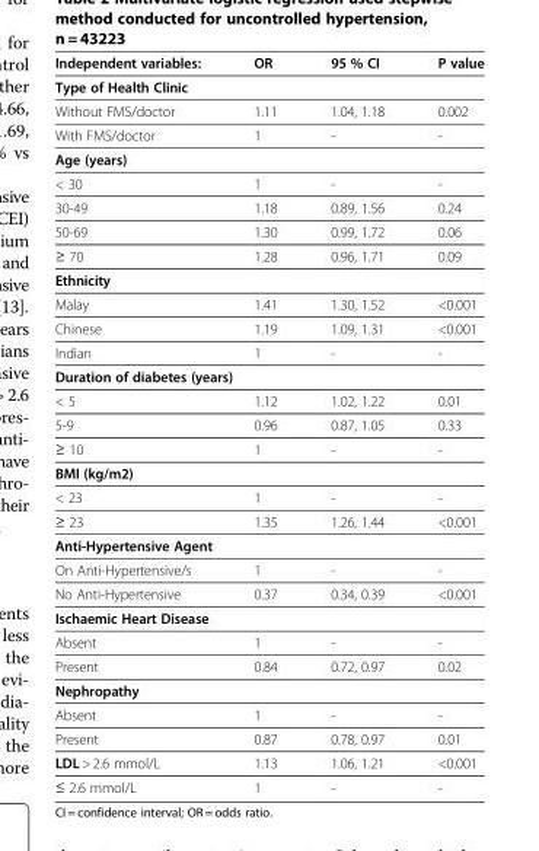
<table><thead><tr><td>Independent variables:</td><td>OR</td><td>95 % CI</td><td>P value</td></tr></thead><tbody><tr><td colspan="4">Type of Health Clinic</td></tr><tr><td>Without FMS/doctor</td><td>1.11</td><td>1.04, 1.18</td><td>0.002</td></tr><tr><td>With FMS/doctor</td><td>1</td><td>-</td><td>-</td></tr><tr><td colspan="4">Age (years)</td></tr><tr><td>&lt; 30</td><td>1</td><td>-</td><td>-</td></tr><tr><td>30-49</td><td>1.18</td><td>0.89, 1.56</td><td>0.24</td></tr><tr><td>50-69</td><td>1.30</td><td>0.99, 1.72</td><td>0.06</td></tr><tr><td>≥ 70</td><td>1.28</td><td>0.96, 1.71</td><td>0.09</td></tr><tr><td colspan="4">Ethnicity</td></tr><tr><td>Malay</td><td>1.41</td><td>1.30, 1.52</td><td>&lt;0.001</td></tr><tr><td>Chinese</td><td>1.19</td><td>1.09, 1.31</td><td>&lt;0.001</td></tr><tr><td>Indian</td><td>1</td><td>-</td><td>-</td></tr><tr><td colspan="4">Duration of diabetes (years)</td></tr><tr><td>&lt; 5</td><td>1.12</td><td>1.02, 1.22</td><td>0.01</td></tr><tr><td>5-9</td><td>0.96</td><td>0.87, 1.05</td><td>0.33</td></tr><tr><td>≥ 10</td><td>1</td><td>-</td><td>-</td></tr><tr><td colspan="4">BMI (kg/m2)</td></tr><tr><td>&lt; 23</td><td>1</td><td>-</td><td>-</td></tr><tr><td>≥ 23</td><td>1.35</td><td>1.26, 1.44</td><td>&lt;0.001</td></tr><tr><td colspan="4">Anti-Hypertensive Agent</td></tr><tr><td>On Anti-Hypertensive/s</td><td>1</td><td>-</td><td>-</td></tr><tr><td>No Anti-Hypertensive</td><td>0.37</td><td>0.34, 0.39</td><td>&lt;0.001</td></tr><tr><td colspan="4">Ischaemic Heart Disease</td></tr><tr><td>Absent</td><td>1</td><td>-</td><td>-</td></tr><tr><td>Present</td><td>0.84</td><td>0.72, 0.97</td><td>0.02</td></tr><tr><td colspan="4">Nephropathy</td></tr><tr><td>Absent</td><td>1</td><td>-</td><td>-</td></tr><tr><td>Present</td><td>0.87</td><td>0.78, 0.97</td><td>0.01</td></tr><tr><td>LDL &gt; 2.6 mmol/L</td><td>1.13</td><td>1.06, 1.21</td><td>&lt;0.001</td></tr><tr><td>≤ 2.6 mmol/L</td><td>1</td><td>-</td><td>-</td></tr></tbody></table>